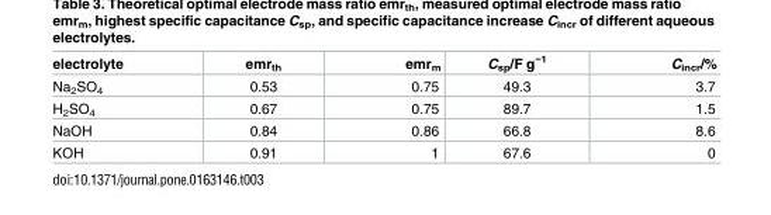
<table><thead><tr><td>electrolyte</td><td>emr<sub>th</sub></td><td>emr<sub>m</sub></td><td>C<sub>sp</sub>/F g<sup>−1</sup></td><td>C<sub>incr</sub>/%</td></tr></thead><tbody><tr><td>Na<sub>2</sub>SO<sub>4</sub></td><td>0.53</td><td>0.75</td><td>49.3</td><td>3.7</td></tr><tr><td>H<sub>2</sub>SO<sub>4</sub></td><td>0.67</td><td>0.75</td><td>89.7</td><td>1.5</td></tr><tr><td>NaOH</td><td>0.84</td><td>0.86</td><td>66.8</td><td>8.6</td></tr><tr><td>KOH</td><td>0.91</td><td>1</td><td>67.6</td><td>0</td></tr></tbody></table>